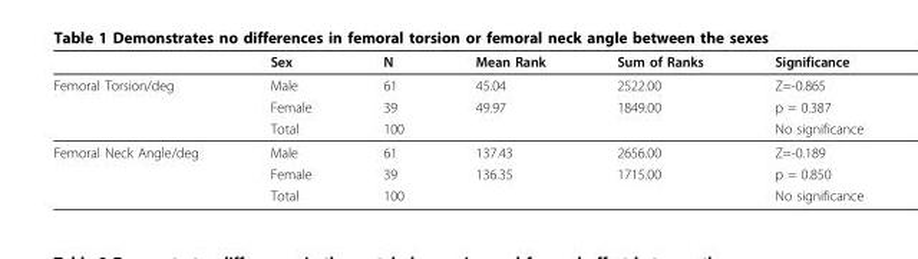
<table><thead><tr><td></td><td>Sex</td><td>N</td><td>Mean Rank</td><td>Sum of Ranks</td><td>Significance</td></tr></thead><tbody><tr><td rowspan="3">Femoral Torsion/deg</td><td>Male</td><td>61</td><td>45.04</td><td>2522.00</td><td>Z=-0.865</td></tr><tr><td>Female</td><td>39</td><td>49.97</td><td>1849.00</td><td>p = 0.387</td></tr><tr><td>Total</td><td>100</td><td></td><td></td><td>No significance</td></tr><tr><td rowspan="3">Femoral Neck Angle/deg</td><td>Male</td><td>61</td><td>137.43</td><td>2656.00</td><td>Z=-0.189</td></tr><tr><td>Female</td><td>39</td><td>136.35</td><td>1715.00</td><td>p = 0.850</td></tr><tr><td>Total</td><td>100</td><td></td><td></td><td>No significance</td></tr></tbody></table>